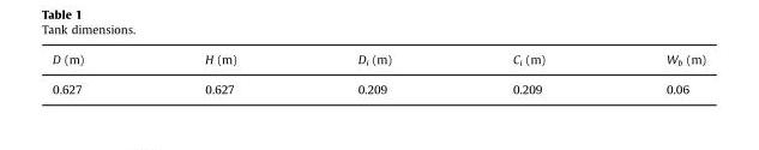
<table><thead><tr><td>D (m)</td><td>H (m)</td><td>D<sub>i</sub> (m)</td><td>C<sub>i</sub> (m)</td><td>W<sub>b</sub> (m)</td></tr></thead><tbody><tr><td>0.627</td><td>0.627</td><td>0.209</td><td>0.209</td><td>0.06</td></tr></tbody></table>